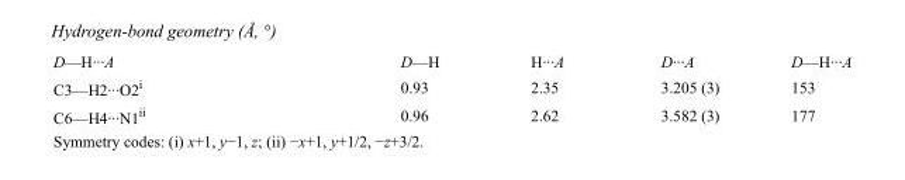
<table><tbody><tr><td>D—H···A</td><td>D—H</td><td>H···A</td><td>D···A</td><td>D—H···A</td></tr><tr><td>C3—H2···O2<sup>i</sup></td><td>0.93</td><td>2.35</td><td>3.205 (3)</td><td>153</td></tr><tr><td>C6—H4···N1<sup>ii</sup></td><td>0.96</td><td>2.62</td><td>3.582 (3)</td><td>177</td></tr></tbody></table>